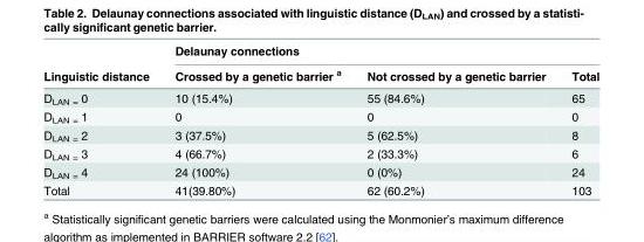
<table><thead><tr><td rowspan="2">Linguistic distance</td><td colspan="3">Delaunay connections</td></tr><tr><td>Crossed by a genetic barrier <sup>a</sup></td><td>Not crossed by a genetic barrier</td><td>Total</td></tr></thead><tbody><tr><td>D<sub>LAN =</sub> 0</td><td>10 (15.4%)</td><td>55 (84.6%)</td><td>65</td></tr><tr><td>D<sub>LAN =</sub> 1</td><td>0</td><td>0</td><td>0</td></tr><tr><td>D<sub>LAN =</sub> 2</td><td>3 (37.5%)</td><td>5 (62.5%)</td><td>8</td></tr><tr><td>D<sub>LAN =</sub> 3</td><td>4 (66.7%)</td><td>2 (33.3%)</td><td>6</td></tr><tr><td>D<sub>LAN =</sub> 4</td><td>24 (100%)</td><td>0 (0%)</td><td>24</td></tr><tr><td>Total</td><td>41(39.80%)</td><td>62 (60.2%)</td><td>103</td></tr></tbody></table>